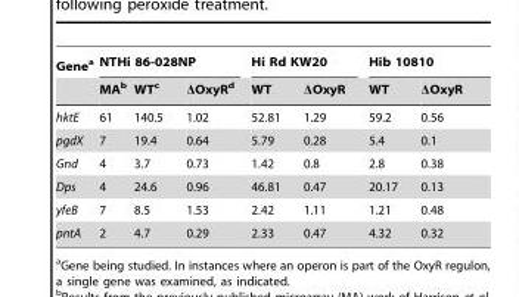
<table><thead><tr><td rowspan="2">Gene<sup>a</sup></td><td colspan="3">NTHi 86-028NP</td><td colspan="2">Hi Rd KW20</td><td colspan="2">Hib 10810</td></tr><tr><td>MA<sup>b</sup></td><td>WT<sup>c</sup></td><td>ΔOxyR<sup>d</sup></td><td>WT</td><td>ΔOxyR</td><td>WT</td><td>ΔOxyR</td></tr></thead><tbody><tr><td>hktE</td><td>61</td><td>140.5</td><td>1.02</td><td>52.81</td><td>1.29</td><td>59.2</td><td>0.56</td></tr><tr><td>pgdX</td><td>7</td><td>19.4</td><td>0.64</td><td>5.79</td><td>0.28</td><td>5.4</td><td>0.1</td></tr><tr><td>Gnd</td><td>4</td><td>3.7</td><td>0.73</td><td>1.42</td><td>0.8</td><td>2.8</td><td>0.38</td></tr><tr><td>Dps</td><td>4</td><td>24.6</td><td>0.96</td><td>46.81</td><td>0.47</td><td>20.17</td><td>0.13</td></tr><tr><td>yfeB</td><td>7</td><td>8.5</td><td>1.53</td><td>2.42</td><td>1.11</td><td>1.21</td><td>0.48</td></tr><tr><td>pntA</td><td>2</td><td>4.7</td><td>0.29</td><td>2.33</td><td>0.47</td><td>4.32</td><td>0.32</td></tr></tbody></table>